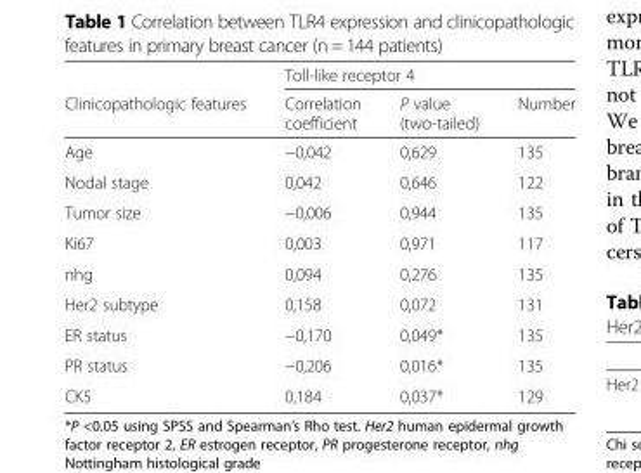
<table><thead><tr><td rowspan="2">Clinicopathologic features</td><td colspan="3">Toll-like receptor 4</td></tr><tr><td>Correlation coefficient</td><td>P value (two-tailed)</td><td>Number</td></tr></thead><tbody><tr><td>Age</td><td>−0,042</td><td>0,629</td><td>135</td></tr><tr><td>Nodal stage</td><td>0,042</td><td>0,646</td><td>122</td></tr><tr><td>Tumor size</td><td>−0,006</td><td>0,944</td><td>135</td></tr><tr><td>Ki67</td><td>0,003</td><td>0,971</td><td>117</td></tr><tr><td>nhg</td><td>0,094</td><td>0,276</td><td>135</td></tr><tr><td>Her2 subtype</td><td>0,158</td><td>0,072</td><td>131</td></tr><tr><td>ER status</td><td>−0,170</td><td>0,049*</td><td>135</td></tr><tr><td>PR status</td><td>−0,206</td><td>0,016*</td><td>135</td></tr><tr><td>CK5</td><td>0,184</td><td>0,037*</td><td>129</td></tr></tbody></table>